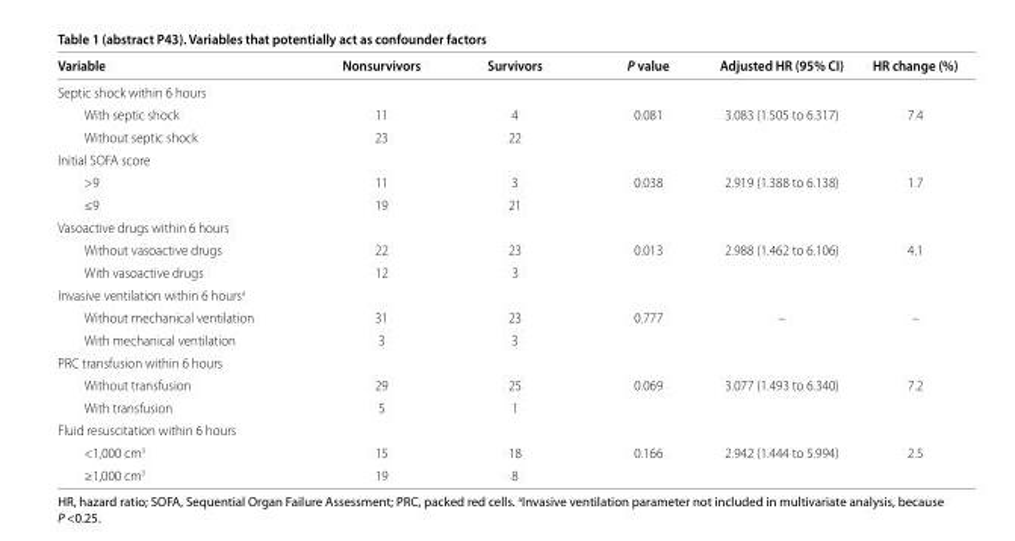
<table><thead><tr><td>Variable</td><td>Nonsurvivors</td><td>Survivors</td><td>P value</td><td>Adjusted HR (95% CI)</td><td>HR change (%)</td></tr></thead><tbody><tr><td colspan="6">Septic shock within 6 hours</td></tr><tr><td>With septic shock</td><td>11</td><td>4</td><td>0.081</td><td>3.083 (1.505 to 6.317)</td><td>7.4</td></tr><tr><td>Without septic shock</td><td>23</td><td>22</td><td></td><td></td><td></td></tr><tr><td colspan="6">Initial SOFA score</td></tr><tr><td>&gt;9</td><td>11</td><td>3</td><td>0.038</td><td>2.919 (1.388 to 6.138)</td><td>1.7</td></tr><tr><td>≤9</td><td>19</td><td>21</td><td></td><td></td><td></td></tr><tr><td colspan="6">Vasoactive drugs within 6 hours</td></tr><tr><td>Without vasoactive drugs</td><td>22</td><td>23</td><td>0.013</td><td>2.988 (1.462 to 6.106)</td><td>4.1</td></tr><tr><td>With vasoactive drugs</td><td>12</td><td>3</td><td></td><td></td><td></td></tr><tr><td colspan="6">Invasive ventilation within 6 hours<sup>a</sup></td></tr><tr><td>Without mechanical ventilation</td><td>31</td><td>23</td><td>0.777</td><td>–</td><td>–</td></tr><tr><td>With mechanical ventilation</td><td>3</td><td>3</td><td></td><td></td><td></td></tr><tr><td colspan="6">PRC transfusion within 6 hours</td></tr><tr><td>Without transfusion</td><td>29</td><td>25</td><td>0.069</td><td>3.077 (1.493 to 6.340)</td><td>7.2</td></tr><tr><td>With transfusion</td><td>5</td><td>1</td><td></td><td></td><td></td></tr><tr><td colspan="6">Fluid resuscitation within 6 hours</td></tr><tr><td>&lt;1,000 cm<sup>3</sup></td><td>15</td><td>18</td><td>0.166</td><td>2.942 (1.444 to 5.994)</td><td>2.5</td></tr><tr><td>≥1,000 cm<sup>3</sup></td><td>19</td><td>8</td><td></td><td></td><td></td></tr></tbody></table>